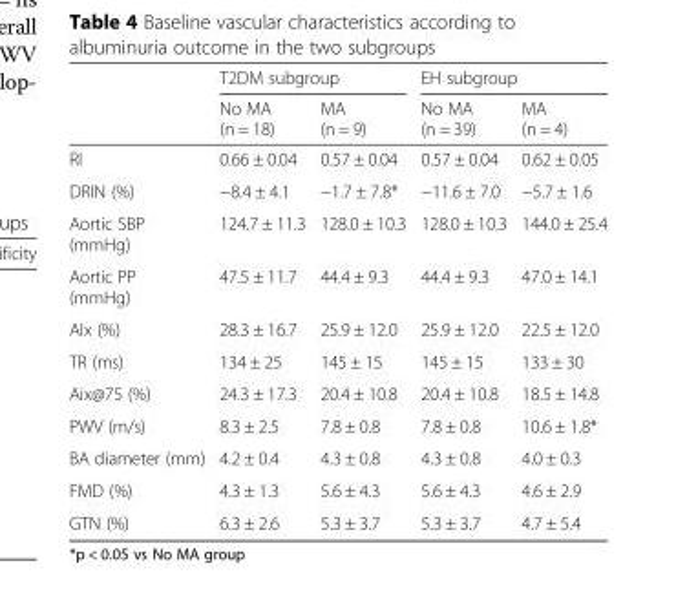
<table><thead><tr><td rowspan="2"></td><td colspan="2">T2DM subgroup</td><td colspan="2">EH subgroup</td></tr><tr><td>No MA (n = 18)</td><td>MA (n = 9)</td><td>No MA (n = 39)</td><td>MA (n = 4)</td></tr></thead><tbody><tr><td>RI</td><td>0.66 ± 0.04</td><td>0.57 ± 0.04</td><td>0.57 ± 0.04</td><td>0.62 ± 0.05</td></tr><tr><td>DRIN (%)</td><td>−8.4 ± 4.1</td><td>−1.7 ± 7.8*</td><td>−11.6 ± 7.0</td><td>−5.7 ± 1.6</td></tr><tr><td>Aortic SBP (mmHg)</td><td>124.7 ± 11.3</td><td>128.0 ± 10.3</td><td>128.0 ± 10.3</td><td>144.0 ± 25.4</td></tr><tr><td>Aortic PP (mmHg)</td><td>47.5 ± 11.7</td><td>44.4 ± 9.3</td><td>44.4 ± 9.3</td><td>47.0 ± 14.1</td></tr><tr><td>AIx (%)</td><td>28.3 ± 16.7</td><td>25.9 ± 12.0</td><td>25.9 ± 12.0</td><td>22.5 ± 12.0</td></tr><tr><td>TR (ms)</td><td>134 ± 25</td><td>145 ± 15</td><td>145 ± 15</td><td>133 ± 30</td></tr><tr><td>Aix@75 (%)</td><td>24.3 ± 17.3</td><td>20.4 ± 10.8</td><td>20.4 ± 10.8</td><td>18.5 ± 14.8</td></tr><tr><td>PWV (m/s)</td><td>8.3 ± 2.5</td><td>7.8 ± 0.8</td><td>7.8 ± 0.8</td><td>10.6 ± 1.8*</td></tr><tr><td>BA diameter (mm)</td><td>4.2 ± 0.4</td><td>4.3 ± 0.8</td><td>4.3 ± 0.8</td><td>4.0 ± 0.3</td></tr><tr><td>FMD (%)</td><td>4.3 ± 1.3</td><td>5.6 ± 4.3</td><td>5.6 ± 4.3</td><td>4.6 ± 2.9</td></tr><tr><td>GTN (%)</td><td>6.3 ± 2.6</td><td>5.3 ± 3.7</td><td>5.3 ± 3.7</td><td>4.7 ± 5.4</td></tr></tbody></table>